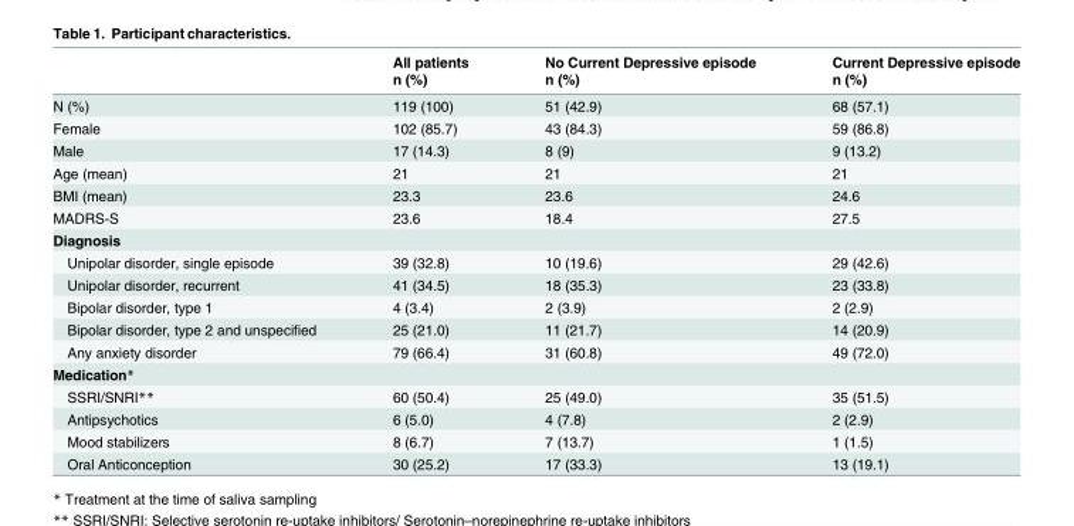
<table><thead><tr><td rowspan="2"></td><td rowspan="2">All patients n (%)</td><td rowspan="2">No Current Depressive episode n (%)</td><td rowspan="2">Current Depressive episode n (%)</td></tr><tr></tr></thead><tbody><tr><td>N (%)</td><td>119 (100)</td><td>51 (42.9)</td><td>68 (57.1)</td></tr><tr><td>Female</td><td>102 (85.7)</td><td>43 (84.3)</td><td>59 (86.8)</td></tr><tr><td>Male</td><td>17 (14.3)</td><td>8 (9)</td><td>9 (13.2)</td></tr><tr><td>Age (mean)</td><td>21</td><td>21</td><td>21</td></tr><tr><td>BMI (mean)</td><td>23.3</td><td>23.6</td><td>24.6</td></tr><tr><td>MADRS-S</td><td>23.6</td><td>18.4</td><td>27.5</td></tr><tr><td colspan="4">Diagnosis</td></tr><tr><td>Unipolar disorder, single episode</td><td>39 (32.8)</td><td>10 (19.6)</td><td>29 (42.6)</td></tr><tr><td>Unipolar disorder, recurrent</td><td>41 (34.5)</td><td>18 (35.3)</td><td>23 (33.8)</td></tr><tr><td>Bipolar disorder, type 1</td><td>4 (3.4)</td><td>2 (3.9)</td><td>2 (2.9)</td></tr><tr><td>Bipolar disorder, type 2 and unspecified</td><td>25 (21.0)</td><td>11 (21.7)</td><td>14 (20.9)</td></tr><tr><td>Any anxiety disorder</td><td>79 (66.4)</td><td>31 (60.8)</td><td>49 (72.0)</td></tr><tr><td colspan="4">Medication*</td></tr><tr><td>SSRI/SNRI**</td><td>60 (50.4)</td><td>25 (49.0)</td><td>35 (51.5)</td></tr><tr><td>Antipsychotics</td><td>6 (5.0)</td><td>4 (7.8)</td><td>2 (2.9)</td></tr><tr><td>Mood stabilizers</td><td>8 (6.7)</td><td>7 (13.7)</td><td>1 (1.5)</td></tr><tr><td>Oral Anticonception</td><td>30 (25.2)</td><td>17 (33.3)</td><td>13 (19.1)</td></tr></tbody></table>